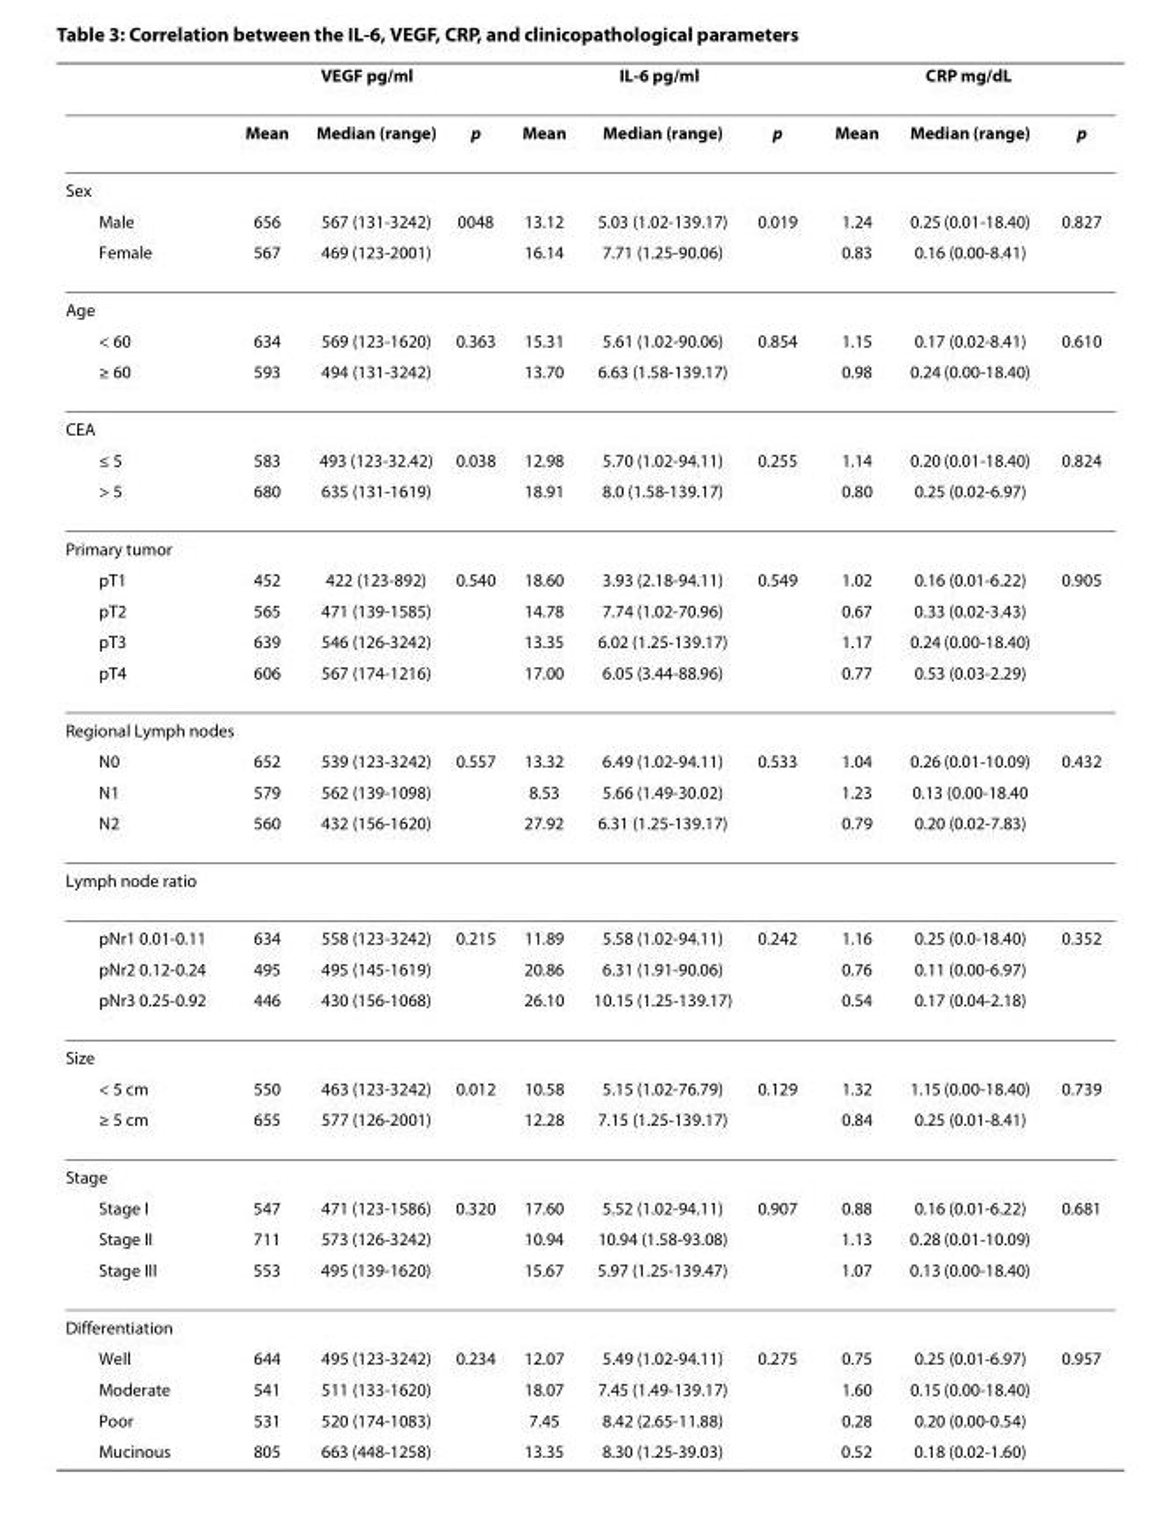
<table><thead><tr><td rowspan="2"></td><td colspan="3">VEGF pg/ml</td><td colspan="3">IL-6 pg/ml</td><td colspan="3">CRP mg/dL</td></tr><tr><td>Mean</td><td>Median (range)</td><td>p</td><td>Mean</td><td>Median (range)</td><td>p</td><td>Mean</td><td>Median (range)</td><td>p</td></tr></thead><tbody><tr><td colspan="10">Sex</td></tr><tr><td>Male</td><td>656</td><td>567 (131-3242)</td><td>0048</td><td>13.12</td><td>5.03 (1.02-139.17)</td><td>0.019</td><td>1.24</td><td>0.25 (0.01-18.40)</td><td>0.827</td></tr><tr><td>Female</td><td>567</td><td>469 (123-2001)</td><td></td><td>16.14</td><td>7.71 (1.25-90.06)</td><td></td><td>0.83</td><td>0.16 (0.00-8.41)</td><td></td></tr><tr><td colspan="10">Age</td></tr><tr><td>&lt; 60</td><td>634</td><td>569 (123-1620)</td><td>0.363</td><td>15.31</td><td>5.61 (1.02-90.06)</td><td>0.854</td><td>1.15</td><td>0.17 (0.02-8.41)</td><td>0.610</td></tr><tr><td>≥ 60</td><td>593</td><td>494 (131-3242)</td><td></td><td>13.70</td><td>6.63 (1.58-139.17)</td><td></td><td>0.98</td><td>0.24 (0.00-18.40)</td><td></td></tr><tr><td colspan="10">CEA</td></tr><tr><td>≤ 5</td><td>583</td><td>493 (123-32.42)</td><td>0.038</td><td>12.98</td><td>5.70 (1.02-94.11)</td><td>0.255</td><td>1.14</td><td>0.20 (0.01-18.40)</td><td>0.824</td></tr><tr><td>&gt; 5</td><td>680</td><td>635 (131-1619)</td><td></td><td>18.91</td><td>8.0 (1.58-139.17)</td><td></td><td>0.80</td><td>0.25 (0.02-6.97)</td><td></td></tr><tr><td colspan="10">Primary tumor</td></tr><tr><td>pT1</td><td>452</td><td>422 (123-892)</td><td>0.540</td><td>18.60</td><td>3.93 (2.18-94.11)</td><td>0.549</td><td>1.02</td><td>0.16 (0.01-6.22)</td><td>0.905</td></tr><tr><td>pT2</td><td>565</td><td>471 (139-1585)</td><td></td><td>14.78</td><td>7.74 (1.02-70.96)</td><td></td><td>0.67</td><td>0.33 (0.02-3.43)</td><td></td></tr><tr><td>pT3</td><td>639</td><td>546 (126-3242)</td><td></td><td>13.35</td><td>6.02 (1.25-139.17)</td><td></td><td>1.17</td><td>0.24 (0.00-18.40)</td><td></td></tr><tr><td>pT4</td><td>606</td><td>567 (174-1216)</td><td></td><td>17.00</td><td>6.05 (3.44-88.96)</td><td></td><td>0.77</td><td>0.53 (0.03-2.29)</td><td></td></tr><tr><td colspan="10">Regional Lymph nodes</td></tr><tr><td>N0</td><td>652</td><td>539 (123-3242)</td><td>0.557</td><td>13.32</td><td>6.49 (1.02-94.11)</td><td>0.533</td><td>1.04</td><td>0.26 (0.01-10.09)</td><td>0.432</td></tr><tr><td>N1</td><td>579</td><td>562 (139-1098)</td><td></td><td>8.53</td><td>5.66 (1.49-30.02)</td><td></td><td>1.23</td><td>0.13 (0.00-18.40</td><td></td></tr><tr><td>N2</td><td>560</td><td>432 (156-1620)</td><td></td><td>27.92</td><td>6.31 (1.25-139.17)</td><td></td><td>0.79</td><td>0.20 (0.02-7.83)</td><td></td></tr><tr><td colspan="10">Lymph node ratio</td></tr><tr><td>pNr1 0.01-0.11</td><td>634</td><td>558 (123-3242)</td><td>0.215</td><td>11.89</td><td>5.58 (1.02-94.11)</td><td>0.242</td><td>1.16</td><td>0.25 (0.0-18.40)</td><td>0.352</td></tr><tr><td>pNr2 0.12-0.24</td><td>495</td><td>495 (145-1619)</td><td></td><td>20.86</td><td>6.31 (1.91-90.06)</td><td></td><td>0.76</td><td>0.11 (0.00-6.97)</td><td></td></tr><tr><td>pNr3 0.25-0.92</td><td>446</td><td>430 (156-1068)</td><td></td><td>26.10</td><td>10.15 (1.25-139.17)</td><td></td><td>0.54</td><td>0.17 (0.04-2.18)</td><td></td></tr><tr><td colspan="10">Size</td></tr><tr><td>&lt; 5 cm</td><td>550</td><td>463 (123-3242)</td><td>0.012</td><td>10.58</td><td>5.15 (1.02-76.79)</td><td>0.129</td><td>1.32</td><td>1.15 (0.00-18.40)</td><td>0.739</td></tr><tr><td>≥ 5 cm</td><td>655</td><td>577 (126-2001)</td><td></td><td>12.28</td><td>7.15 (1.25-139.17)</td><td></td><td>0.84</td><td>0.25 (0.01-8.41)</td><td></td></tr><tr><td colspan="10">Stage</td></tr><tr><td>Stage I</td><td>547</td><td>471 (123-1586)</td><td>0.320</td><td>17.60</td><td>5.52 (1.02-94.11)</td><td>0.907</td><td>0.88</td><td>0.16 (0.01-6.22)</td><td>0.681</td></tr><tr><td>Stage II</td><td>711</td><td>573 (126-3242)</td><td></td><td>10.94</td><td>10.94 (1.58-93.08)</td><td></td><td>1.13</td><td>0.28 (0.01-10.09)</td><td></td></tr><tr><td>Stage III</td><td>553</td><td>495 (139-1620)</td><td></td><td>15.67</td><td>5.97 (1.25-139.47)</td><td></td><td>1.07</td><td>0.13 (0.00-18.40)</td><td></td></tr><tr><td colspan="10">Differentiation</td></tr><tr><td>Well</td><td>644</td><td>495 (123-3242)</td><td>0.234</td><td>12.07</td><td>5.49 (1.02-94.11)</td><td>0.275</td><td>0.75</td><td>0.25 (0.01-6.97)</td><td>0.957</td></tr><tr><td>Moderate</td><td>541</td><td>511 (133-1620)</td><td></td><td>18.07</td><td>7.45 (1.49-139.17)</td><td></td><td>1.60</td><td>0.15 (0.00-18.40)</td><td></td></tr><tr><td>Poor</td><td>531</td><td>520 (174-1083)</td><td></td><td>7.45</td><td>8.42 (2.65-11.88)</td><td></td><td>0.28</td><td>0.20 (0.00-0.54)</td><td></td></tr><tr><td>Mucinous</td><td>805</td><td>663 (448-1258)</td><td></td><td>13.35</td><td>8.30 (1.25-39.03)</td><td></td><td>0.52</td><td>0.18 (0.02-1.60)</td><td></td></tr></tbody></table>